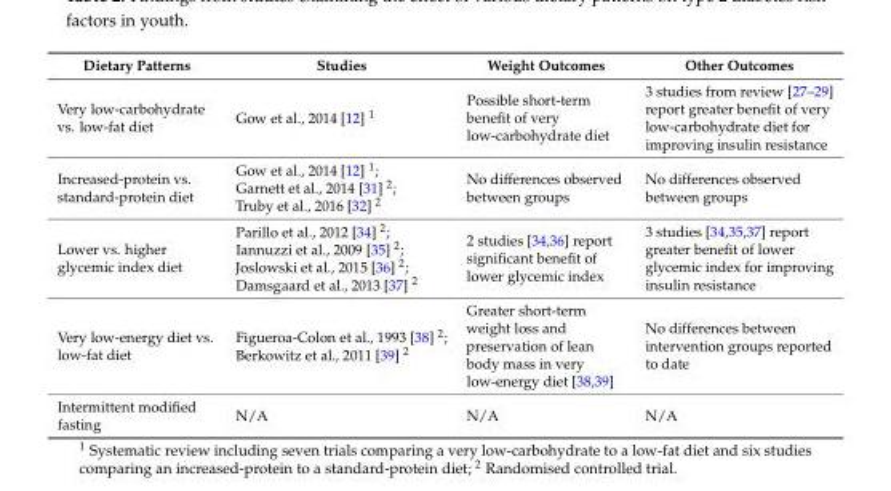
<table><thead><tr><td>Dietary Patterns</td><td>Studies</td><td>Weight Outcomes</td><td>Other Outcomes</td></tr></thead><tbody><tr><td>Very low-carbohydrate vs. low-fat diet</td><td>Gow et al., 2014 [12] <sup>1</sup></td><td>Possible short-term benefit of very low-carbohydrate diet</td><td>3 studies from review [27–29] report greater benefit of very low-carbohydrate diet for improving insulin resistance</td></tr><tr><td>Increased-protein vs. standard-protein diet</td><td>Gow et al., 2014 [12] <sup>1</sup>; Garnett et al., 2014 [31] <sup>2</sup>; Truby et al., 2016 [32] <sup>2</sup></td><td>No differences observed between groups</td><td>No differences observed between groups</td></tr><tr><td>Lower vs. higher glycemic index diet</td><td>Parillo et al., 2012 [34] <sup>2</sup>; Iannuzzi et al., 2009 [35] <sup>2</sup>; Joslowski et al., 2015 [36] <sup>2</sup>; Damsgaard et al., 2013 [37] <sup>2</sup></td><td>2 studies [34,36] report significant benefit of lower glycemic index</td><td>3 studies [34,35,37] report greater benefit of lower glycemic index for improving insulin resistance</td></tr><tr><td>Very low-energy diet vs. low-fat diet</td><td>Figueroa-Colon et al., 1993 [38] <sup>2</sup>; Berkowitz et al., 2011 [39] <sup>2</sup></td><td>Greater short-term weight loss and preservation of lean body mass in very low-energy diet [38,39]</td><td>No differences between intervention groups reported to date</td></tr><tr><td>Intermittent modified fasting</td><td>N/A</td><td>N/A</td><td>N/A</td></tr></tbody></table>